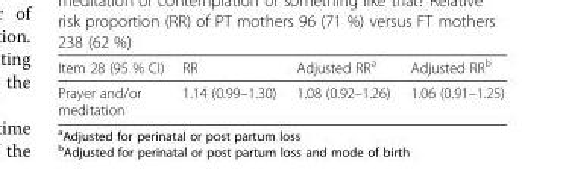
<table><thead><tr><td>Item 28 (95 % CI)</td><td>RR</td><td>Adjusted RR<sup>a</sup></td><td>Adjusted RR<sup>b</sup></td></tr></thead><tbody><tr><td>Prayer and/or meditation</td><td>1.14 (0.99–1.30)</td><td>1.08 (0.92–1.26)</td><td>1.06 (0.91–1.25)</td></tr></tbody></table>